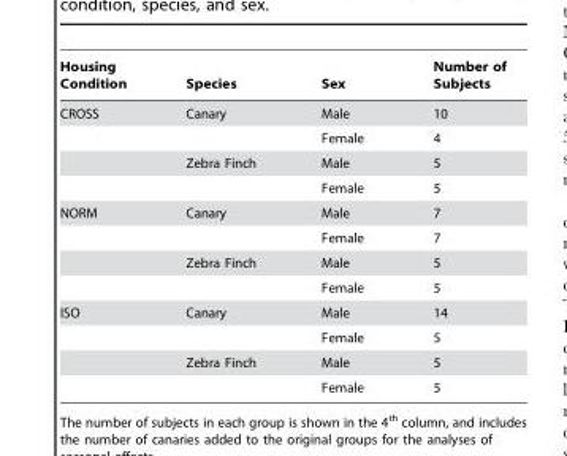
<table><thead><tr><td>Housing Condition</td><td>Species</td><td>Sex</td><td>Number of Subjects</td></tr></thead><tbody><tr><td rowspan="4">CROSS</td><td>Canary</td><td>Male</td><td>10</td></tr><tr><td></td><td>Female</td><td>4</td></tr><tr><td>Zebra Finch</td><td>Male</td><td>5</td></tr><tr><td></td><td>Female</td><td>5</td></tr><tr><td rowspan="4">NORM</td><td>Canary</td><td>Male</td><td>7</td></tr><tr><td></td><td>Female</td><td>7</td></tr><tr><td>Zebra Finch</td><td>Male</td><td>5</td></tr><tr><td></td><td>Female</td><td>5</td></tr><tr><td rowspan="4">ISO</td><td>Canary</td><td>Male</td><td>14</td></tr><tr><td></td><td>Female</td><td>5</td></tr><tr><td>Zebra Finch</td><td>Male</td><td>5</td></tr><tr><td></td><td>Female</td><td>5</td></tr></tbody></table>